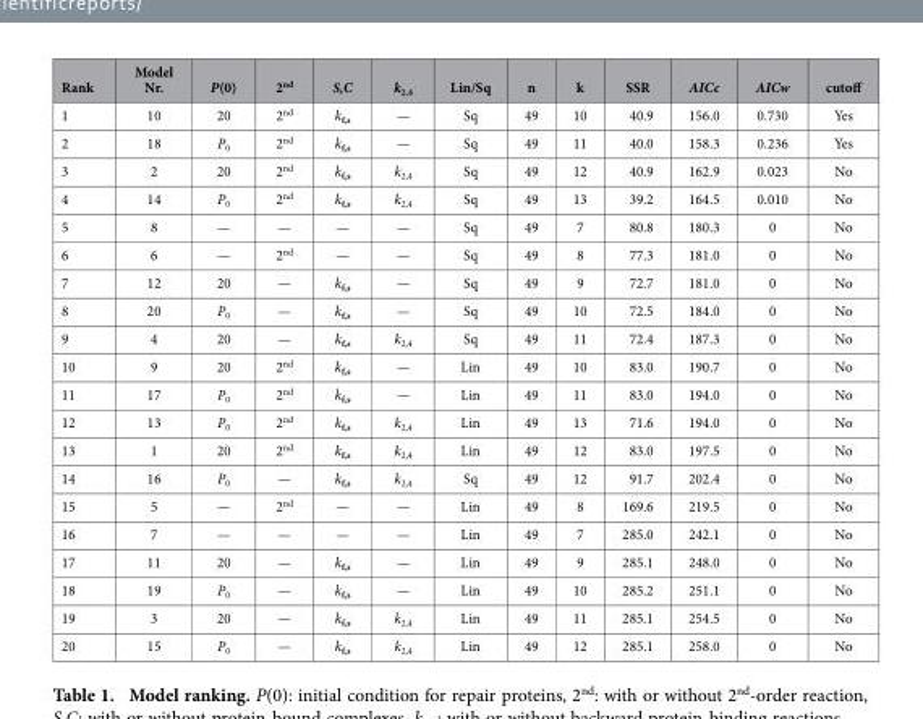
<table><thead><tr><td>Rank</td><td>Model Nr.</td><td>P(0)</td><td>2<sup>nd</sup></td><td>S,C</td><td>k<sub>2,4</sub></td><td>Lin/Sq</td><td>n</td><td>k</td><td>SSR</td><td>AICc</td><td>AICw</td><td>cutoff</td></tr></thead><tbody><tr><td>1</td><td>10</td><td>20</td><td>2<sup>nd</sup></td><td>k<sub>f,s</sub></td><td>—</td><td>Sq</td><td>49</td><td>10</td><td>40.9</td><td>156.0</td><td>0.730</td><td>Yes</td></tr><tr><td>2</td><td>18</td><td>P<sub>0</sub></td><td>2<sup>nd</sup></td><td>k<sub>f,s</sub></td><td>—</td><td>Sq</td><td>49</td><td>11</td><td>40.0</td><td>158.3</td><td>0.236</td><td>Yes</td></tr><tr><td>3</td><td>2</td><td>20</td><td>2<sup>nd</sup></td><td>k<sub>f,s</sub></td><td>k<sub>2,4</sub></td><td>Sq</td><td>49</td><td>12</td><td>40.9</td><td>162.9</td><td>0.023</td><td>No</td></tr><tr><td>4</td><td>14</td><td>P<sub>0</sub></td><td>2<sup>nd</sup></td><td>k<sub>f,s</sub></td><td>k<sub>2,4</sub></td><td>Sq</td><td>49</td><td>13</td><td>39.2</td><td>164.5</td><td>0.010</td><td>No</td></tr><tr><td>5</td><td>8</td><td>—</td><td>—</td><td>—</td><td>—</td><td>Sq</td><td>49</td><td>7</td><td>80.8</td><td>180.3</td><td>0</td><td>No</td></tr><tr><td>6</td><td>6</td><td>—</td><td>2<sup>nd</sup></td><td>—</td><td>—</td><td>Sq</td><td>49</td><td>8</td><td>77.3</td><td>181.0</td><td>0</td><td>No</td></tr><tr><td>7</td><td>12</td><td>20</td><td>—</td><td>k<sub>f,s</sub></td><td>—</td><td>Sq</td><td>49</td><td>9</td><td>72.7</td><td>181.0</td><td>0</td><td>No</td></tr><tr><td>8</td><td>20</td><td>P<sub>0</sub></td><td>—</td><td>k<sub>f,s</sub></td><td>—</td><td>Sq</td><td>49</td><td>10</td><td>72.5</td><td>184.0</td><td>0</td><td>No</td></tr><tr><td>9</td><td>4</td><td>20</td><td>—</td><td>k<sub>f,s</sub></td><td>k<sub>2,4</sub></td><td>Sq</td><td>49</td><td>11</td><td>72.4</td><td>187.3</td><td>0</td><td>No</td></tr><tr><td>10</td><td>9</td><td>20</td><td>2<sup>nd</sup></td><td>k<sub>f,s</sub></td><td>—</td><td>Lin</td><td>49</td><td>10</td><td>83.0</td><td>190.7</td><td>0</td><td>No</td></tr><tr><td>11</td><td>17</td><td>P<sub>0</sub></td><td>2<sup>nd</sup></td><td>k<sub>f,s</sub></td><td>—</td><td>Lin</td><td>49</td><td>11</td><td>83.0</td><td>194.0</td><td>0</td><td>No</td></tr><tr><td>12</td><td>13</td><td>P<sub>0</sub></td><td>2<sup>nd</sup></td><td>k<sub>f,s</sub></td><td>k<sub>2,4</sub></td><td>Lin</td><td>49</td><td>13</td><td>71.6</td><td>194.0</td><td>0</td><td>No</td></tr><tr><td>13</td><td>1</td><td>20</td><td>2<sup>nd</sup></td><td>k<sub>f,s</sub></td><td>k<sub>2,4</sub></td><td>Lin</td><td>49</td><td>12</td><td>83.0</td><td>197.5</td><td>0</td><td>No</td></tr><tr><td>14</td><td>16</td><td>P<sub>0</sub></td><td>—</td><td>k<sub>f,s</sub></td><td>k<sub>2,4</sub></td><td>Sq</td><td>49</td><td>12</td><td>91.7</td><td>202.4</td><td>0</td><td>No</td></tr><tr><td>15</td><td>5</td><td>—</td><td>2<sup>nd</sup></td><td>—</td><td>—</td><td>Lin</td><td>49</td><td>8</td><td>169.6</td><td>219.5</td><td>0</td><td>No</td></tr><tr><td>16</td><td>7</td><td>—</td><td>—</td><td>—</td><td>—</td><td>Lin</td><td>49</td><td>7</td><td>285.0</td><td>242.1</td><td>0</td><td>No</td></tr><tr><td>17</td><td>11</td><td>20</td><td>—</td><td>k<sub>f,s</sub></td><td>—</td><td>Lin</td><td>49</td><td>9</td><td>285.1</td><td>248.0</td><td>0</td><td>No</td></tr><tr><td>18</td><td>19</td><td>P<sub>0</sub></td><td>—</td><td>k<sub>f,s</sub></td><td>—</td><td>Lin</td><td>49</td><td>10</td><td>285.2</td><td>251.1</td><td>0</td><td>No</td></tr><tr><td>19</td><td>3</td><td>20</td><td>—</td><td>k<sub>f,s</sub></td><td>k<sub>2,4</sub></td><td>Lin</td><td>49</td><td>11</td><td>285.1</td><td>254.5</td><td>0</td><td>No</td></tr><tr><td>20</td><td>15</td><td>P<sub>0</sub></td><td>—</td><td>k<sub>f,s</sub></td><td>k<sub>2,4</sub></td><td>Lin</td><td>49</td><td>12</td><td>285.1</td><td>258.0</td><td>0</td><td>No</td></tr></tbody></table>